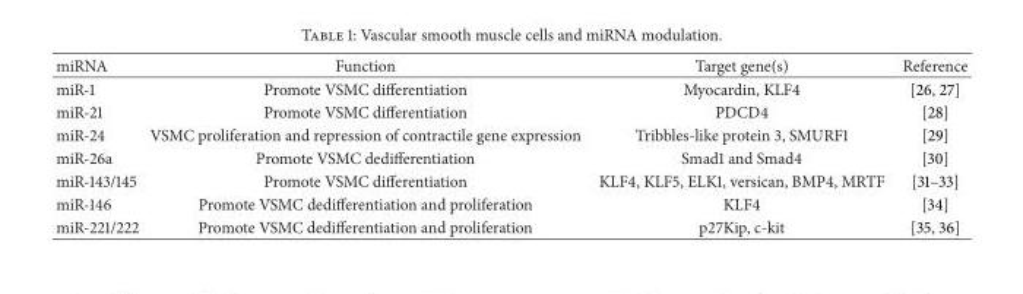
<table><thead><tr><td>miRNA</td><td>Function</td><td>Target gene(s)</td><td>Reference</td></tr></thead><tbody><tr><td>miR-1</td><td>Promote VSMC differentiation</td><td>Myocardin, KLF4</td><td>[26, 27]</td></tr><tr><td>miR-21</td><td>Promote VSMC differentiation</td><td>PDCD4</td><td>[28]</td></tr><tr><td>miR-24</td><td>VSMC proliferation and repression of contractile gene expression</td><td>Tribbles-like protein 3, SMURF1</td><td>[29]</td></tr><tr><td>miR-26a</td><td>Promote VSMC dedifferentiation</td><td>Smad1 and Smad4</td><td>[30]</td></tr><tr><td>miR-143/145</td><td>Promote VSMC differentiation</td><td>KLF4, KLF5, ELK1, versican, BMP4, MRTF</td><td>[31–33]</td></tr><tr><td>miR-146</td><td>Promote VSMC dedifferentiation and proliferation</td><td>KLF4</td><td>[34]</td></tr><tr><td>miR-221/222</td><td>Promote VSMC dedifferentiation and proliferation</td><td>p27Kip, c-kit</td><td>[35, 36]</td></tr></tbody></table>